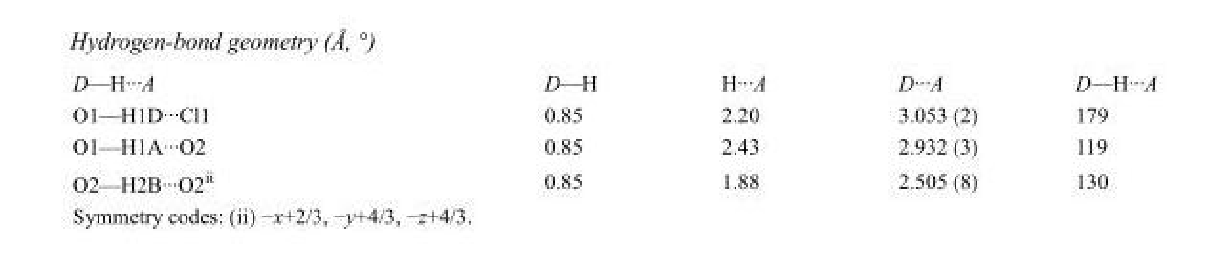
<table><tbody><tr><td>D—H···A</td><td>D—H</td><td>H···A</td><td>D···A</td><td>D—H···A</td></tr><tr><td>O1—H1D···Cl1</td><td>0.85</td><td>2.20</td><td>3.053 (2)</td><td>179</td></tr><tr><td>O1—H1A···O2</td><td>0.85</td><td>2.43</td><td>2.932 (3)</td><td>119</td></tr><tr><td>O2—H2B···O2<sup>ii</sup></td><td>0.85</td><td>1.88</td><td>2.505 (8)</td><td>130</td></tr></tbody></table>